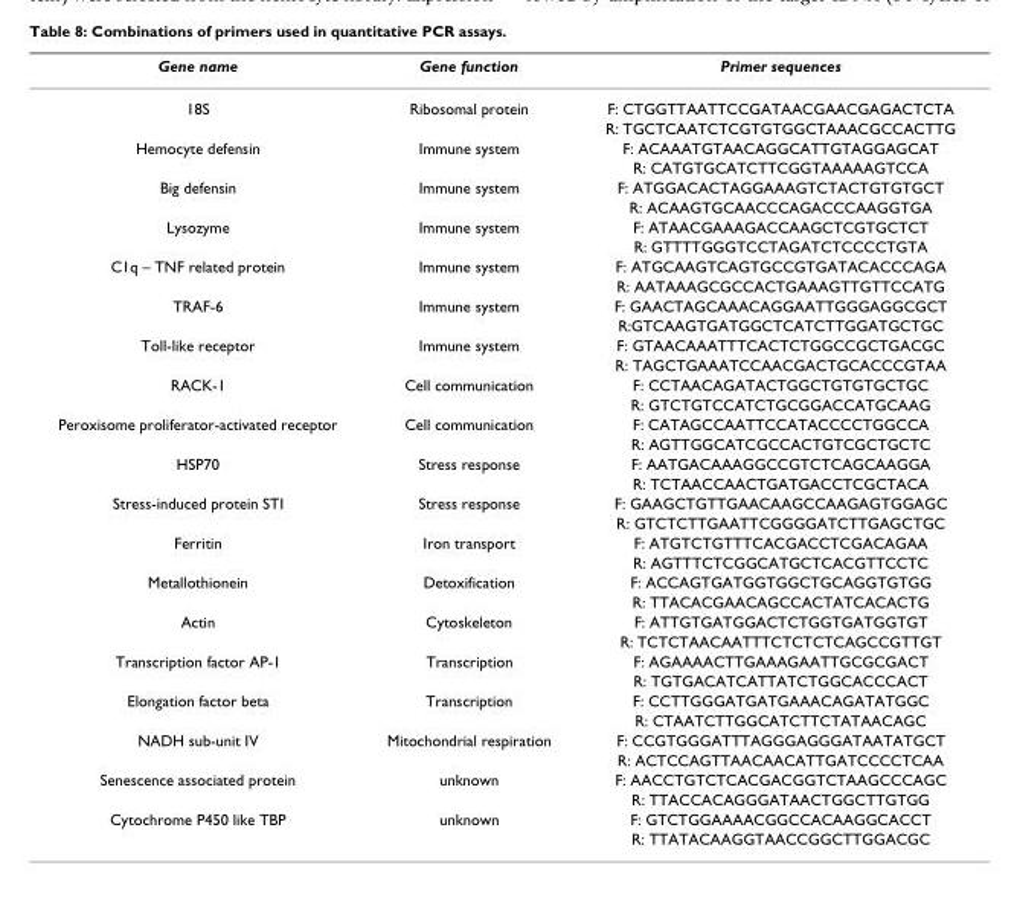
<table><thead><tr><td>Gene name</td><td>Gene function</td><td>Primer sequences</td></tr></thead><tbody><tr><td rowspan="2">18S</td><td>Ribosomal protein</td><td>F: CTGGTTAATTCCGATAACGAACGAGACTCTA</td></tr><tr><td></td><td>R: TGCTCAATCTCGTGTGGCTAAACGCCACTTG</td></tr><tr><td rowspan="2">Hemocyte defensin</td><td>Immune system</td><td>F: ACAAATGTAACAGGCATTGTAGGAGCAT</td></tr><tr><td></td><td>R: CATGTGCATCTTCGGTAAAAAGTCCA</td></tr><tr><td rowspan="2">Big defensin</td><td>Immune system</td><td>F: ATGGACACTAGGAAAGTCTACTGTGTGCT</td></tr><tr><td></td><td>R: ACAAGTGCAACCCAGACCCAAGGTGA</td></tr><tr><td rowspan="2">Lysozyme</td><td>Immune system</td><td>F: ATAACGAAAGACCAAGCTCGTGCTCT</td></tr><tr><td></td><td>R: GTTTTGGGTCCTAGATCTCCCCTGTA</td></tr><tr><td rowspan="2">C1q – TNF related protein</td><td>Immune system</td><td>F: ATGCAAGTCAGTGCCGTGATACACCCAGA</td></tr><tr><td></td><td>R: AATAAAGCGCCACTGAAAGTTGTTCCATG</td></tr><tr><td rowspan="2">TRAF-6</td><td>Immune system</td><td>F: GAACTAGCAAACAGGAATTGGGAGGCGCT</td></tr><tr><td></td><td>R:GTCAAGTGATGGCTCATCTTGGATGCTGC</td></tr><tr><td rowspan="2">Toll-like receptor</td><td>Immune system</td><td>F: GTAACAAATTTCACTCTGGCCGCTGACGC</td></tr><tr><td></td><td>R: TAGCTGAAATCCAACGACTGCACCCGTAA</td></tr><tr><td rowspan="2">RACK-1</td><td>Cell communication</td><td>F: CCTAACAGATACTGGCTGTGTGCTGC</td></tr><tr><td></td><td>R: GTCTGTCCATCTGCGGACCATGCAAG</td></tr><tr><td rowspan="2">Peroxisome proliferator-activated receptor</td><td>Cell communication</td><td>F: CATAGCCAATTCCATACCCCTGGCCA</td></tr><tr><td></td><td>R: AGTTGGCATCGCCACTGTCGCTGCTC</td></tr><tr><td rowspan="2">HSP70</td><td>Stress response</td><td>F: AATGACAAAGGCCGTCTCAGCAAGGA</td></tr><tr><td></td><td>R: TCTAACCAACTGATGACCTCGCTACA</td></tr><tr><td rowspan="2">Stress-induced protein STI</td><td>Stress response</td><td>F: GAAGCTGTTGAACAAGCCAAGAGTGGAGC</td></tr><tr><td></td><td>R: GTCTCTTGAATTCGGGGATCTTGAGCTGC</td></tr><tr><td rowspan="2">Ferritin</td><td>Iron transport</td><td>F: ATGTCTGTTTCACGACCTCGACAGAA</td></tr><tr><td></td><td>R: AGTTTCTCGGCATGCTCACGTTCCTC</td></tr><tr><td rowspan="2">Metallothionein</td><td>Detoxification</td><td>F: ACCAGTGATGGTGGCTGCAGGTGTGG</td></tr><tr><td></td><td>R: TTACACGAACAGCCACTATCACACTG</td></tr><tr><td rowspan="2">Actin</td><td>Cytoskeleton</td><td>F: ATTGTGATGGACTCTGGTGATGGTGT</td></tr><tr><td></td><td>R: TCTCTAACAATTTCTCTCTCAGCCGTTGT</td></tr><tr><td rowspan="2">Transcription factor AP-1</td><td>Transcription</td><td>F: AGAAAACTTGAAAGAATTGCGCGACT</td></tr><tr><td></td><td>R: TGTGACATCATTATCTGGCACCCACT</td></tr><tr><td rowspan="2">Elongation factor beta</td><td>Transcription</td><td>F: CCTTGGGATGATGAAACAGATATGGC</td></tr><tr><td></td><td>R: CTAATCTTGGCATCTTCTATAACAGC</td></tr><tr><td rowspan="2">NADH sub-unit IV</td><td>Mitochondrial respiration</td><td>F: CCGTGGGATTTAGGGAGGGATAATATGCT</td></tr><tr><td></td><td>R: ACTCCAGTTAACAACATTGATCCCCTCAA</td></tr><tr><td rowspan="2">Senescence associated protein</td><td>unknown</td><td>F: AACCTGTCTCACGACGGTCTAAGCCCAGC</td></tr><tr><td></td><td>R: TTACCACAGGGATAACTGGCTTGTGG</td></tr><tr><td rowspan="2">Cytochrome P450 like TBP</td><td>unknown</td><td>F: GTCTGGAAAACGGCCACAAGGCACCT</td></tr><tr><td></td><td>R: TTATACAAGGTAACCGGCTTGGACGC</td></tr></tbody></table>